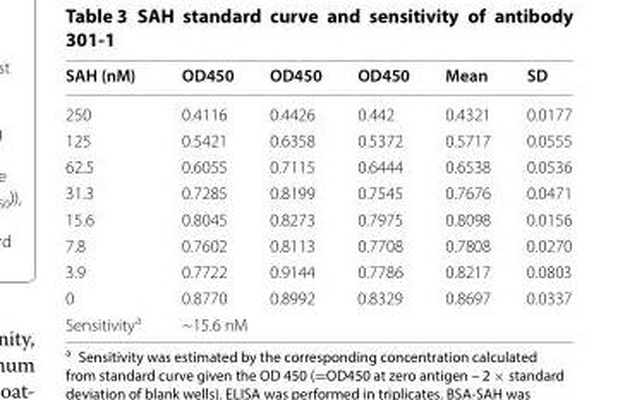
<table><thead><tr><td>SAH (nM)</td><td>OD450</td><td>OD450</td><td>OD450</td><td>Mean</td><td>SD</td></tr></thead><tbody><tr><td>250</td><td>0.4116</td><td>0.4426</td><td>0.442</td><td>0.4321</td><td>0.0177</td></tr><tr><td>125</td><td>0.5421</td><td>0.6358</td><td>0.5372</td><td>0.5717</td><td>0.0555</td></tr><tr><td>62.5</td><td>0.6055</td><td>0.7115</td><td>0.6444</td><td>0.6538</td><td>0.0536</td></tr><tr><td>31.3</td><td>0.7285</td><td>0.8199</td><td>0.7545</td><td>0.7676</td><td>0.0471</td></tr><tr><td>15.6</td><td>0.8045</td><td>0.8273</td><td>0.7975</td><td>0.8098</td><td>0.0156</td></tr><tr><td>7.8</td><td>0.7602</td><td>0.8113</td><td>0.7708</td><td>0.7808</td><td>0.0270</td></tr><tr><td>3.9</td><td>0.7722</td><td>0.9144</td><td>0.7786</td><td>0.8217</td><td>0.0803</td></tr><tr><td>0</td><td>0.8770</td><td>0.8992</td><td>0.8329</td><td>0.8697</td><td>0.0337</td></tr><tr><td>Sensitivity<sup>a</sup></td><td colspan="5">~15.6 nM</td></tr></tbody></table>